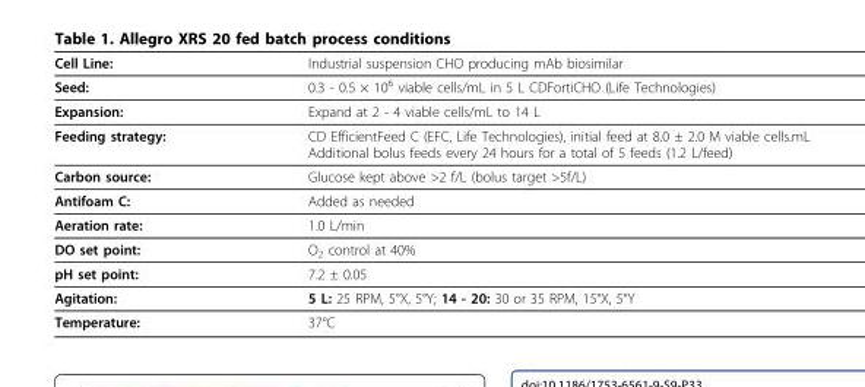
<table><thead><tr><td>Cell Line:</td><td>Industrial suspension CHO producing mAb biosimilar</td></tr></thead><tbody><tr><td>Seed:</td><td>0.3 - 0.5 × 10<sup>6</sup> viable cells/mL in 5 L CDFortiCHO (Life Technologies)</td></tr><tr><td>Expansion:</td><td>Expand at 2 - 4 viable cells/mL to 14 L</td></tr><tr><td>Feeding strategy:</td><td>CD EfficientFeed C (EFC, Life Technologies), initial feed at 8.0 ± 2.0 M viable cells.mL Additional bolus feeds every 24 hours for a total of 5 feeds (1.2 L/feed)</td></tr><tr><td>Carbon source:</td><td>Glucose kept above &gt;2 f/L (bolus target &gt;5f/L)</td></tr><tr><td>Antifoam C:</td><td>Added as needed</td></tr><tr><td>Aeration rate:</td><td>1.0 L/min</td></tr><tr><td>DO set point:</td><td>O<sub>2</sub> control at 40%</td></tr><tr><td>pH set point:</td><td>7.2 ± 0.05</td></tr><tr><td>Agitation:</td><td>5 L: 25 RPM, 5°X, 5°Y; 14 - 20: 30 or 35 RPM, 15°X, 5°Y</td></tr><tr><td>Temperature:</td><td>37°C</td></tr></tbody></table>